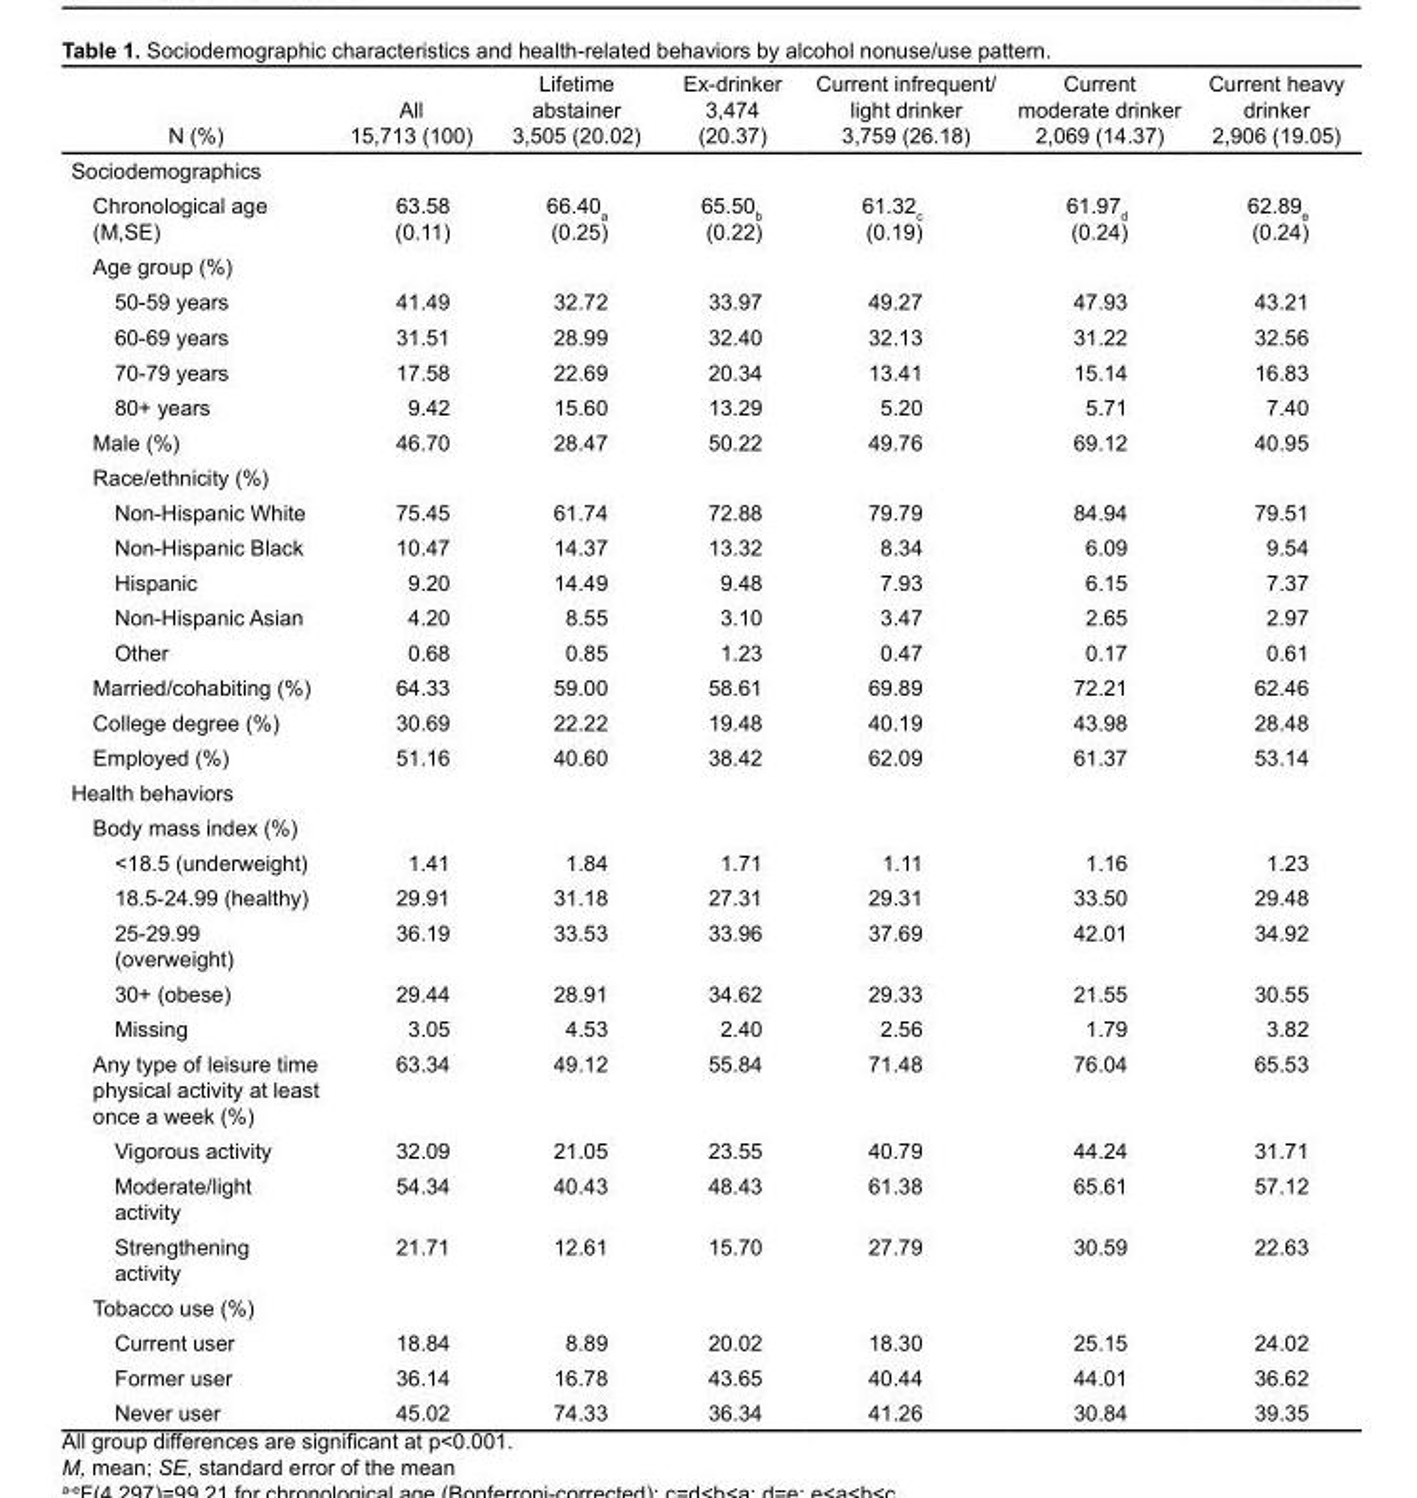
<table><thead><tr><td>N (%)</td><td>All 15,713 (100)</td><td>Lifetime abstainer 3,505 (20.02)</td><td>Ex-drinker 3,474 (20.37)</td><td>Current infrequent/ light drinker 3,759 (26.18)</td><td>Current moderate drinker 2,069 (14.37)</td><td>Current heavy drinker 2,906 (19.05)</td></tr></thead><tbody><tr><td colspan="7">Sociodemographics</td></tr><tr><td>Chronological age (M,SE)</td><td>63.58 (0.11)</td><td>66.40<sup>a</sup> (0.25)</td><td>65.50<sup>b</sup> (0.22)</td><td>61.32<sup>c</sup> (0.19)</td><td>61.97<sup>d</sup> (0.24)</td><td>62.89<sup>e</sup> (0.24)</td></tr><tr><td colspan="7">Age group (%)</td></tr><tr><td>50-59 years</td><td>41.49</td><td>32.72</td><td>33.97</td><td>49.27</td><td>47.93</td><td>43.21</td></tr><tr><td>60-69 years</td><td>31.51</td><td>28.99</td><td>32.40</td><td>32.13</td><td>31.22</td><td>32.56</td></tr><tr><td>70-79 years</td><td>17.58</td><td>22.69</td><td>20.34</td><td>13.41</td><td>15.14</td><td>16.83</td></tr><tr><td>80+ years</td><td>9.42</td><td>15.60</td><td>13.29</td><td>5.20</td><td>5.71</td><td>7.40</td></tr><tr><td>Male (%)</td><td>46.70</td><td>28.47</td><td>50.22</td><td>49.76</td><td>69.12</td><td>40.95</td></tr><tr><td colspan="7">Race/ethnicity (%)</td></tr><tr><td>Non-Hispanic White</td><td>75.45</td><td>61.74</td><td>72.88</td><td>79.79</td><td>84.94</td><td>79.51</td></tr><tr><td>Non-Hispanic Black</td><td>10.47</td><td>14.37</td><td>13.32</td><td>8.34</td><td>6.09</td><td>9.54</td></tr><tr><td>Hispanic</td><td>9.20</td><td>14.49</td><td>9.48</td><td>7.93</td><td>6.15</td><td>7.37</td></tr><tr><td>Non-Hispanic Asian</td><td>4.20</td><td>8.55</td><td>3.10</td><td>3.47</td><td>2.65</td><td>2.97</td></tr><tr><td>Other</td><td>0.68</td><td>0.85</td><td>1.23</td><td>0.47</td><td>0.17</td><td>0.61</td></tr><tr><td>Married/cohabiting (%)</td><td>64.33</td><td>59.00</td><td>58.61</td><td>69.89</td><td>72.21</td><td>62.46</td></tr><tr><td>College degree (%)</td><td>30.69</td><td>22.22</td><td>19.48</td><td>40.19</td><td>43.98</td><td>28.48</td></tr><tr><td>Employed (%)</td><td>51.16</td><td>40.60</td><td>38.42</td><td>62.09</td><td>61.37</td><td>53.14</td></tr><tr><td colspan="7">Health behaviors</td></tr><tr><td colspan="7">Body mass index (%)</td></tr><tr><td>&lt;18.5 (underweight)</td><td>1.41</td><td>1.84</td><td>1.71</td><td>1.11</td><td>1.16</td><td>1.23</td></tr><tr><td>18.5-24.99 (healthy)</td><td>29.91</td><td>31.18</td><td>27.31</td><td>29.31</td><td>33.50</td><td>29.48</td></tr><tr><td>25-29.99 (overweight)</td><td>36.19</td><td>33.53</td><td>33.96</td><td>37.69</td><td>42.01</td><td>34.92</td></tr><tr><td>30+ (obese)</td><td>29.44</td><td>28.91</td><td>34.62</td><td>29.33</td><td>21.55</td><td>30.55</td></tr><tr><td>Missing</td><td>3.05</td><td>4.53</td><td>2.40</td><td>2.56</td><td>1.79</td><td>3.82</td></tr><tr><td>Any type of leisure time physical activity at least once a week (%)</td><td>63.34</td><td>49.12</td><td>55.84</td><td>71.48</td><td>76.04</td><td>65.53</td></tr><tr><td>Vigorous activity</td><td>32.09</td><td>21.05</td><td>23.55</td><td>40.79</td><td>44.24</td><td>31.71</td></tr><tr><td>Moderate/light activity</td><td>54.34</td><td>40.43</td><td>48.43</td><td>61.38</td><td>65.61</td><td>57.12</td></tr><tr><td>Strengthening activity</td><td>21.71</td><td>12.61</td><td>15.70</td><td>27.79</td><td>30.59</td><td>22.63</td></tr><tr><td colspan="7">Tobacco use (%)</td></tr><tr><td>Current user</td><td>18.84</td><td>8.89</td><td>20.02</td><td>18.30</td><td>25.15</td><td>24.02</td></tr><tr><td>Former user</td><td>36.14</td><td>16.78</td><td>43.65</td><td>40.44</td><td>44.01</td><td>36.62</td></tr><tr><td>Never user</td><td>45.02</td><td>74.33</td><td>36.34</td><td>41.26</td><td>30.84</td><td>39.35</td></tr></tbody></table>